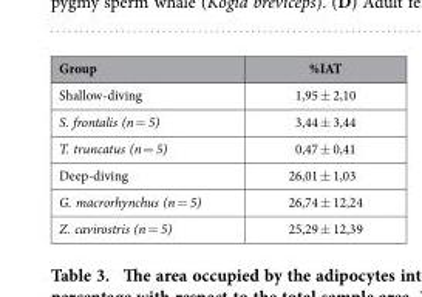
<table><thead><tr><td>Group</td><td>%IAT</td></tr></thead><tbody><tr><td>Shallow-diving</td><td>1,95 ± 2,10</td></tr><tr><td>S. frontalis (n = 5)</td><td>3,44 ± 3,44</td></tr><tr><td>T. truncatus (n = 5)</td><td>0,47 ± 0,41</td></tr><tr><td>Deep-diving</td><td>26,01 ± 1,03</td></tr><tr><td>G. macrorhynchus (n = 5)</td><td>26,74 ± 12,24</td></tr><tr><td>Z. cavirostris (n = 5)</td><td>25,29 ± 12,39</td></tr></tbody></table>